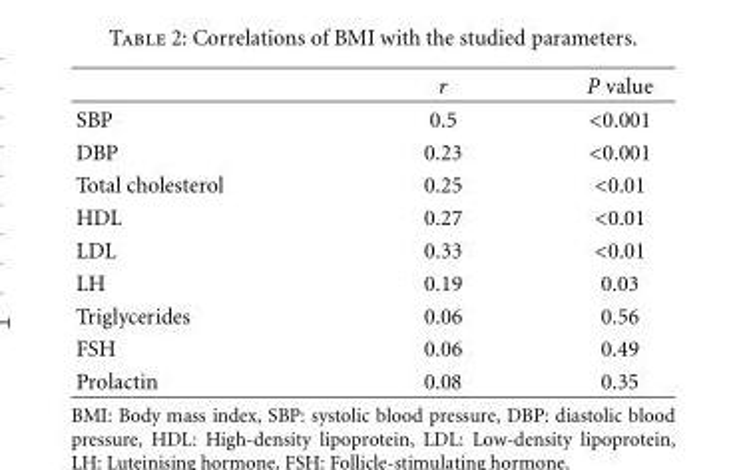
<table><thead><tr><td></td><td>r</td><td>P value</td></tr></thead><tbody><tr><td>SBP</td><td>0.5</td><td>&lt;0.001</td></tr><tr><td>DBP</td><td>0.23</td><td>&lt;0.001</td></tr><tr><td>Total cholesterol</td><td>0.25</td><td>&lt;0.01</td></tr><tr><td>HDL</td><td>0.27</td><td>&lt;0.01</td></tr><tr><td>LDL</td><td>0.33</td><td>&lt;0.01</td></tr><tr><td>LH</td><td>0.19</td><td>0.03</td></tr><tr><td>Triglycerides</td><td>0.06</td><td>0.56</td></tr><tr><td>FSH</td><td>0.06</td><td>0.49</td></tr><tr><td>Prolactin</td><td>0.08</td><td>0.35</td></tr></tbody></table>